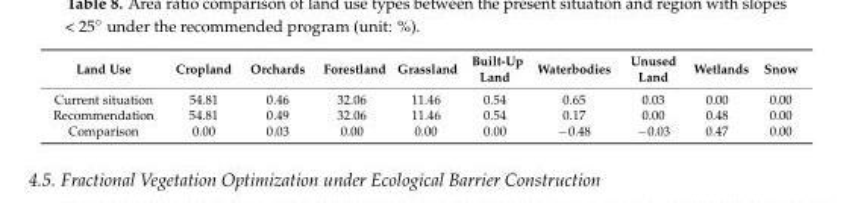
<table><thead><tr><td>Land Use</td><td>Cropland</td><td>Orchards</td><td>Forestland</td><td>Grassland</td><td>Built-Up Land</td><td>Waterbodies</td><td>Unused Land</td><td>Wetlands</td><td>Snow</td></tr></thead><tbody><tr><td>Current situation</td><td>54.81</td><td>0.46</td><td>32.06</td><td>11.46</td><td>0.54</td><td>0.65</td><td>0.03</td><td>0.00</td><td>0.00</td></tr><tr><td>Recommendation</td><td>54.81</td><td>0.49</td><td>32.06</td><td>11.46</td><td>0.54</td><td>0.17</td><td>0.00</td><td>0.48</td><td>0.00</td></tr><tr><td>Comparison</td><td>0.00</td><td>0.03</td><td>0.00</td><td>0.00</td><td>0.00</td><td>−0.48</td><td>−0.03</td><td>0.47</td><td>0.00</td></tr></tbody></table>